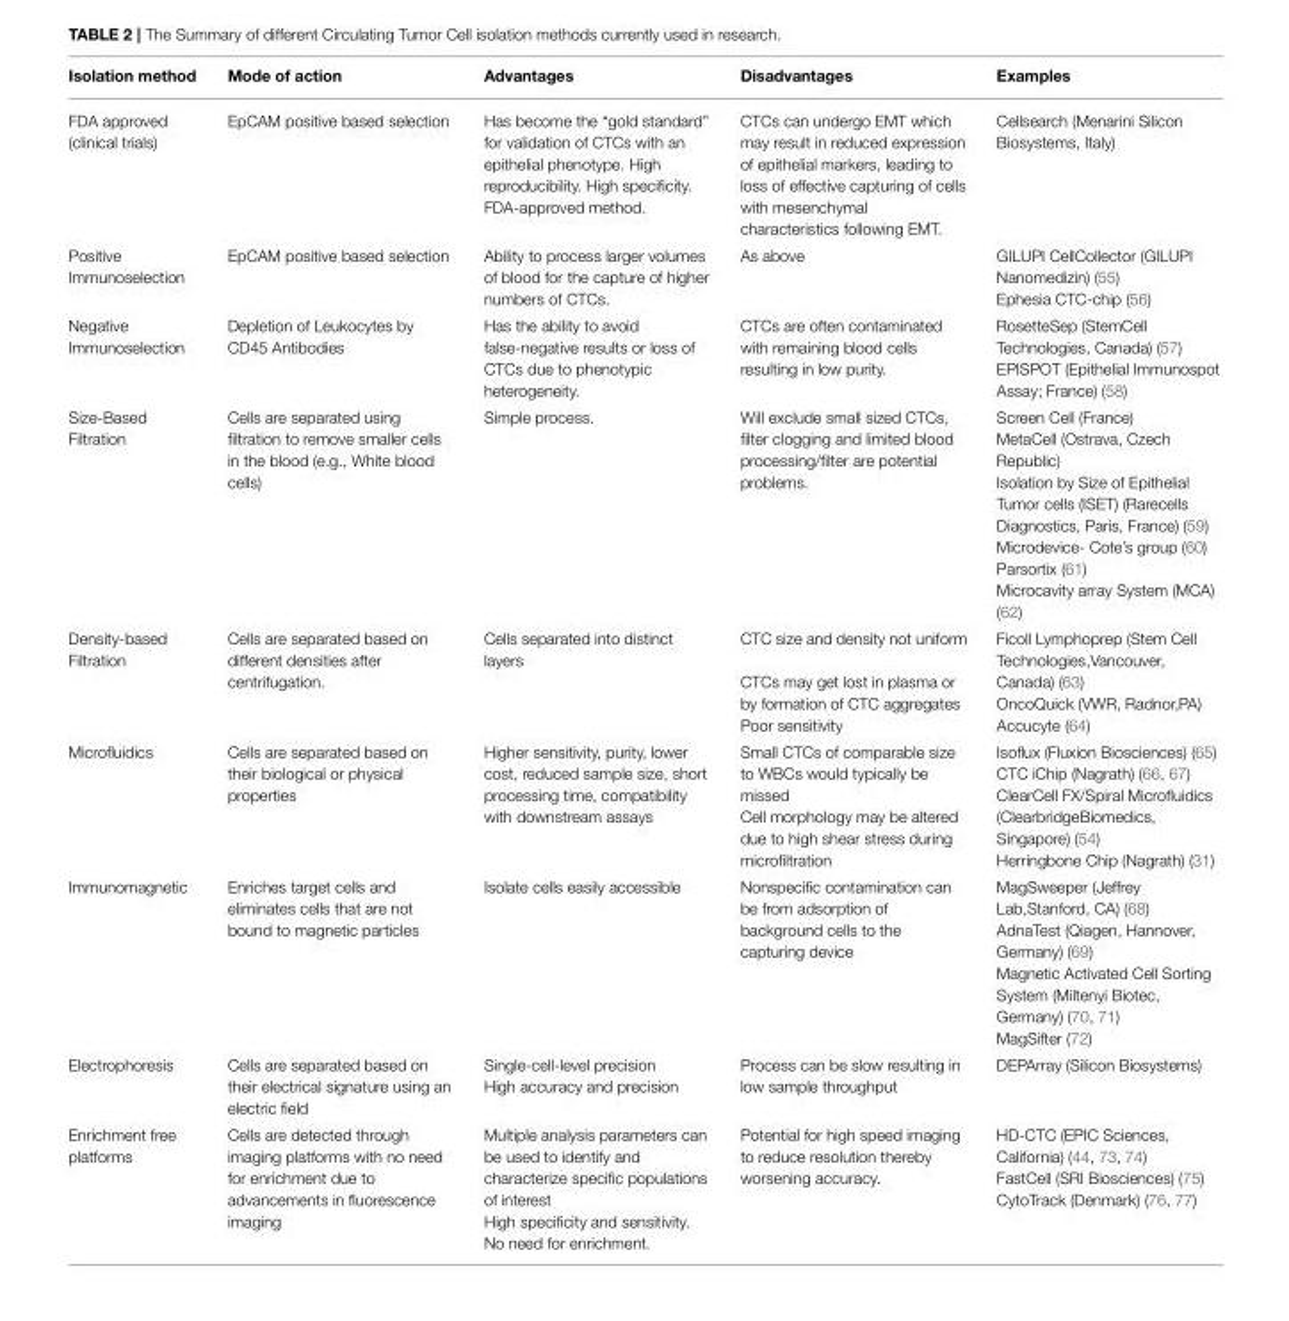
<table><thead><tr><td>Isolation method</td><td>Mode of action</td><td>Advantages</td><td>Disadvantages</td><td>Examples</td></tr></thead><tbody><tr><td>FDA approved (clinical trials)</td><td>EpCAM positive based selection</td><td>Has become the “gold standard” for validation of CTCs with an epithelial phenotype. High reproducibility. High specificity. FDA-approved method.</td><td>CTCs can undergo EMT which may result in reduced expression of epithelial markers, leading to loss of effective capturing of cells with mesenchymal characteristics following EMT.</td><td>Cellsearch (Menarini Silicon Biosystems, Italy)</td></tr><tr><td>Positive Immunoselection</td><td>EpCAM positive based selection</td><td>Ability to process larger volumes of blood for the capture of higher numbers of CTCs.</td><td>As above</td><td>GILUPI CellCollector (GILUPI Nanomedizin) (55) Ephesia CTC-chip (56)</td></tr><tr><td>Negative Immunoselection</td><td>Depletion of Leukocytes by CD45 Antibodies</td><td>Has the ability to avoid false-negative results or loss of CTCs due to phenotypic heterogeneity.</td><td>CTCs are often contaminated with remaining blood cells resulting in low purity.</td><td>RosetteSep (StemCell Technologies, Canada) (57) EPISPOT (Epithelial Immunospot Assay; France) (58)</td></tr><tr><td>Size-Based Filtration</td><td>Cells are separated using filtration to remove smaller cells in the blood (e.g., White blood cells)</td><td>Simple process.</td><td>Will exclude small sized CTCs, filter clogging and limited blood processing/filter are potential problems.</td><td>Screen Cell (France) MetaCell (Ostrava, Czech Republic) Isolation by Size of Epithelial Tumor cells (ISET) (Rarecells Diagnostics, Paris, France) (59) Microdevice- Cote’s group (60) Parsortix (61) Microcavity array System (MCA) (62)</td></tr><tr><td>Density-based Filtration</td><td>Cells are separated based on different densities after centrifugation.</td><td>Cells separated into distinct layers</td><td>CTC size and density not uniform CTCs may get lost in plasma or by formation of CTC aggregates Poor sensitivity</td><td>Ficoll Lymphoprep (Stem Cell Technologies,Vancouver, Canada) (63) OncoQuick (VWR, Radnor,PA) Accucyte (64)</td></tr><tr><td>Microfluidics</td><td>Cells are separated based on their biological or physical properties</td><td>Higher sensitivity, purity, lower cost, reduced sample size, short processing time, compatibility with downstream assays</td><td>Small CTCs of comparable size to WBCs would typically be missed Cell morphology may be altered due to high shear stress during microfiltration</td><td>Isoflux (Fluxion Biosciences) (65) CTC iChip (Nagrath) (66, 67) ClearCell FX/Spiral Microfluidics (ClearbridgeBiomedics, Singapore) (54) Herringbone Chip (Nagrath) (31)</td></tr><tr><td>Immunomagnetic</td><td>Enriches target cells and eliminates cells that are not bound to magnetic particles</td><td>Isolate cells easily accessible</td><td>Nonspecific contamination can be from adsorption of background cells to the capturing device</td><td>MagSweeper (Jeffrey Lab,Stanford, CA) (68) AdnaTest (Qiagen, Hannover, Germany) (69) Magnetic Activated Cell Sorting System (Miltenyi Biotec, Germany) (70, 71) MagSifter (72)</td></tr><tr><td>Electrophoresis</td><td>Cells are separated based on their electrical signature using an electric field</td><td>Single-cell-level precision High accuracy and precision</td><td>Process can be slow resulting in low sample throughput</td><td>DEPArray (Silicon Biosystems)</td></tr><tr><td>Enrichment free platforms</td><td>Cells are detected through imaging platforms with no need for enrichment due to advancements in fluorescence imaging</td><td>Multiple analysis parameters can be used to identify and characterize specific populations of interest High specificity and sensitivity. No need for enrichment.</td><td>Potential for high speed imaging to reduce resolution thereby worsening accuracy.</td><td>HD-CTC (EPIC Sciences, California) (44, 73, 74) FastCell (SRI Biosciences) (75) CytoTrack (Denmark) (76, 77)</td></tr></tbody></table>